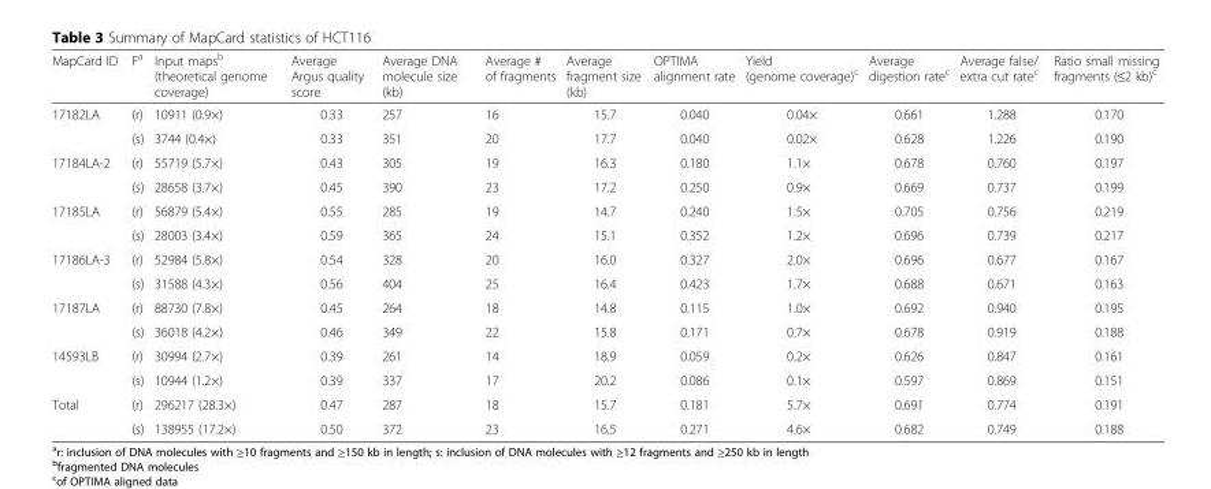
<table><thead><tr><td>MapCard ID</td><td>F<sup>a</sup></td><td>Input maps<sup>b</sup> (theoretical genome coverage)</td><td>Average Argus quality score</td><td>Average DNA molecule size (kb)</td><td>Average # of fragments</td><td>Average fragment size (kb)</td><td>OPTIMA alignment rate</td><td>Yield (genome coverage)<sup>c</sup></td><td>Average digestion rate<sup>c</sup></td><td>Average false/ extra cut rate<sup>c</sup></td><td>Ratio small missing fragments (≤2 kb)<sup>c</sup></td></tr></thead><tbody><tr><td rowspan="2">17182LA</td><td>(r)</td><td>10911 (0.9×)</td><td>0.33</td><td>257</td><td>16</td><td>15.7</td><td>0.040</td><td>0.04×</td><td>0.661</td><td>1.288</td><td>0.170</td></tr><tr><td>(s)</td><td>3744 (0.4×)</td><td>0.33</td><td>351</td><td>20</td><td>17.7</td><td>0.040</td><td>0.02×</td><td>0.628</td><td>1.226</td><td>0.190</td></tr><tr><td rowspan="2">17184LA-2</td><td>(r)</td><td>55719 (5.7×)</td><td>0.43</td><td>305</td><td>19</td><td>16.3</td><td>0.180</td><td>1.1×</td><td>0.678</td><td>0.760</td><td>0.197</td></tr><tr><td>(s)</td><td>28658 (3.7×)</td><td>0.45</td><td>390</td><td>23</td><td>17.2</td><td>0.250</td><td>0.9×</td><td>0.669</td><td>0.737</td><td>0.199</td></tr><tr><td rowspan="2">17185LA</td><td>(r)</td><td>56879 (5.4×)</td><td>0.55</td><td>285</td><td>19</td><td>14.7</td><td>0.240</td><td>1.5×</td><td>0.705</td><td>0.756</td><td>0.219</td></tr><tr><td>(s)</td><td>28003 (3.4×)</td><td>0.59</td><td>365</td><td>24</td><td>15.1</td><td>0.352</td><td>1.2×</td><td>0.696</td><td>0.739</td><td>0.217</td></tr><tr><td rowspan="2">17186LA-3</td><td>(r)</td><td>52984 (5.8×)</td><td>0.54</td><td>328</td><td>20</td><td>16.0</td><td>0.327</td><td>2.0×</td><td>0.696</td><td>0.677</td><td>0.167</td></tr><tr><td>(s)</td><td>31588 (4.3×)</td><td>0.56</td><td>404</td><td>25</td><td>16.4</td><td>0.423</td><td>1.7×</td><td>0.688</td><td>0.671</td><td>0.163</td></tr><tr><td rowspan="2">17187LA</td><td>(r)</td><td>88730 (7.8×)</td><td>0.45</td><td>264</td><td>18</td><td>14.8</td><td>0.115</td><td>1.0×</td><td>0.692</td><td>0.940</td><td>0.195</td></tr><tr><td>(s)</td><td>36018 (4.2×)</td><td>0.46</td><td>349</td><td>22</td><td>15.8</td><td>0.171</td><td>0.7×</td><td>0.678</td><td>0.919</td><td>0.188</td></tr><tr><td rowspan="2">14593LB</td><td>(r)</td><td>30994 (2.7×)</td><td>0.39</td><td>261</td><td>14</td><td>18.9</td><td>0.059</td><td>0.2×</td><td>0.626</td><td>0.847</td><td>0.161</td></tr><tr><td>(s)</td><td>10944 (1.2×)</td><td>0.39</td><td>337</td><td>17</td><td>20.2</td><td>0.086</td><td>0.1×</td><td>0.597</td><td>0.869</td><td>0.151</td></tr><tr><td rowspan="2">Total</td><td>(r)</td><td>296217 (28.3×)</td><td>0.47</td><td>287</td><td>18</td><td>15.7</td><td>0.181</td><td>5.7×</td><td>0.691</td><td>0.774</td><td>0.191</td></tr><tr><td>(s)</td><td>138955 (17.2×)</td><td>0.50</td><td>372</td><td>23</td><td>16.5</td><td>0.271</td><td>4.6×</td><td>0.682</td><td>0.749</td><td>0.188</td></tr></tbody></table>